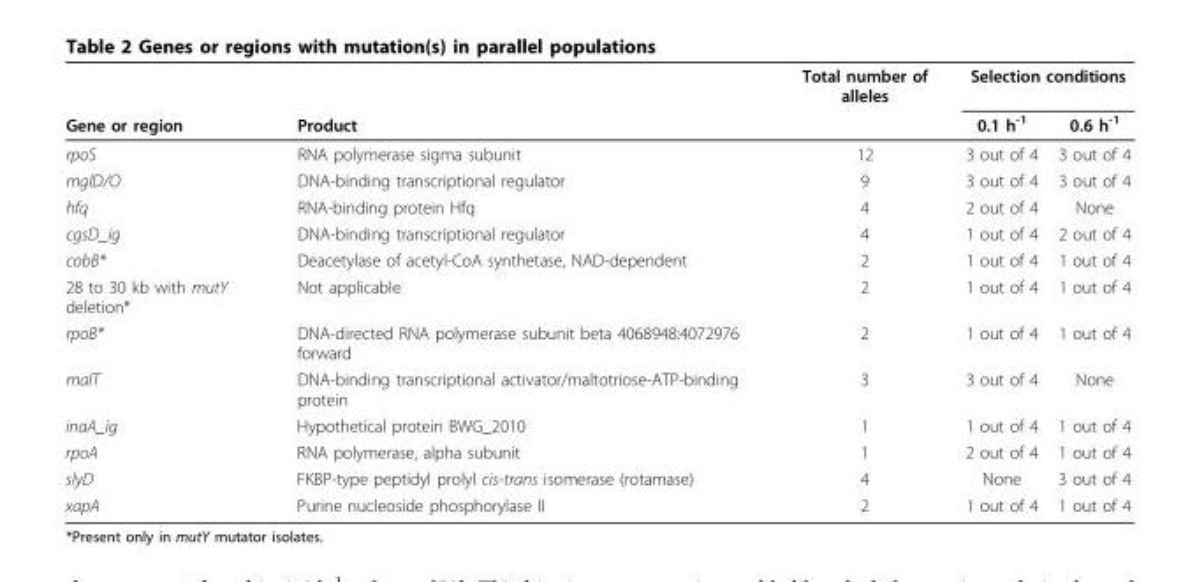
<table><thead><tr><td rowspan="2">Gene or region</td><td rowspan="2">Product</td><td rowspan="2">Total number of alleles</td><td colspan="2">Selection conditions</td></tr><tr><td>0.1 h<sup>-1</sup></td><td>0.6 h<sup>-1</sup></td></tr></thead><tbody><tr><td>rpoS</td><td>RNA polymerase sigma subunit</td><td>12</td><td>3 out of 4</td><td>3 out of 4</td></tr><tr><td>mglD/O</td><td>DNA-binding transcriptional regulator</td><td>9</td><td>3 out of 4</td><td>3 out of 4</td></tr><tr><td>hfq</td><td>RNA-binding protein Hfq</td><td>4</td><td>2 out of 4</td><td>None</td></tr><tr><td>cgsD_ig</td><td>DNA-binding transcriptional regulator</td><td>4</td><td>1 out of 4</td><td>2 out of 4</td></tr><tr><td>cobB*</td><td>Deacetylase of acetyl-CoA synthetase, NAD-dependent</td><td>2</td><td>1 out of 4</td><td>1 out of 4</td></tr><tr><td>28 to 30 kb with mutY deletion*</td><td>Not applicable</td><td>2</td><td>1 out of 4</td><td>1 out of 4</td></tr><tr><td>rpoB*</td><td>DNA-directed RNA polymerase subunit beta 4068948:4072976 forward</td><td>2</td><td>1 out of 4</td><td>1 out of 4</td></tr><tr><td>malT</td><td>DNA-binding transcriptional activator/maltotriose-ATP-binding protein</td><td>3</td><td>3 out of 4</td><td>None</td></tr><tr><td>inaA_ig</td><td>Hypothetical protein BWG_2010</td><td>1</td><td>1 out of 4</td><td>1 out of 4</td></tr><tr><td>rpoA</td><td>RNA polymerase, alpha subunit</td><td>1</td><td>2 out of 4</td><td>1 out of 4</td></tr><tr><td>slyD</td><td>FKBP-type peptidyl prolyl cis-trans isomerase (rotamase)</td><td>4</td><td>None</td><td>3 out of 4</td></tr><tr><td>xapA</td><td>Purine nucleoside phosphorylase II</td><td>2</td><td>1 out of 4</td><td>1 out of 4</td></tr></tbody></table>